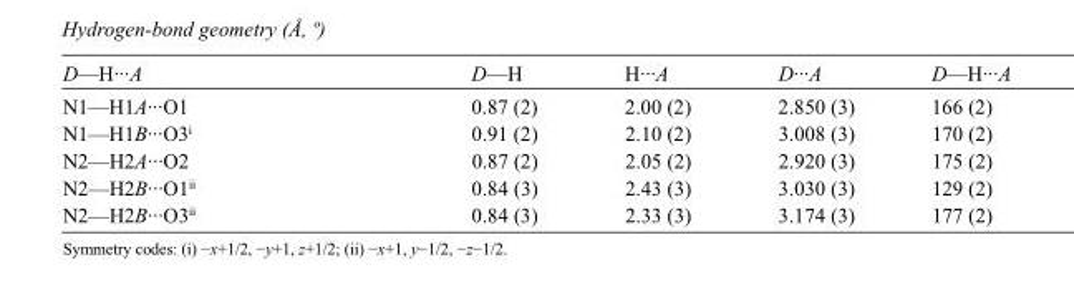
<table><tbody><tr><td>D—H···A</td><td>D—H</td><td>H···A</td><td>D···A</td><td>D—H···A</td></tr><tr><td>N1—H1A···O1</td><td>0.87 (2)</td><td>2.00 (2)</td><td>2.850 (3)</td><td>166 (2)</td></tr><tr><td>N1—H1B···O3<sup>i</sup></td><td>0.91 (2)</td><td>2.10 (2)</td><td>3.008 (3)</td><td>170 (2)</td></tr><tr><td>N2—H2A···O2</td><td>0.87 (2)</td><td>2.05 (2)</td><td>2.920 (3)</td><td>175 (2)</td></tr><tr><td>N2—H2B···O1<sup>ii</sup></td><td>0.84 (3)</td><td>2.43 (3)</td><td>3.030 (3)</td><td>129 (2)</td></tr><tr><td>N2—H2B···O3<sup>ii</sup></td><td>0.84 (3)</td><td>2.33 (3)</td><td>3.174 (3)</td><td>177 (2)</td></tr></tbody></table>